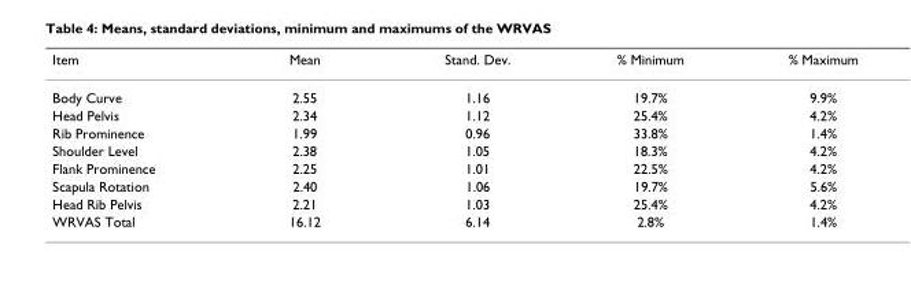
<table><thead><tr><td>Item</td><td>Mean</td><td>Stand. Dev.</td><td>% Minimum</td><td>% Maximum</td></tr></thead><tbody><tr><td>Body Curve</td><td>2.55</td><td>1.16</td><td>19.7%</td><td>9.9%</td></tr><tr><td>Head Pelvis</td><td>2.34</td><td>1.12</td><td>25.4%</td><td>4.2%</td></tr><tr><td>Rib Prominence</td><td>1.99</td><td>0.96</td><td>33.8%</td><td>1.4%</td></tr><tr><td>Shoulder Level</td><td>2.38</td><td>1.05</td><td>18.3%</td><td>4.2%</td></tr><tr><td>Flank Prominence</td><td>2.25</td><td>1.01</td><td>22.5%</td><td>4.2%</td></tr><tr><td>Scapula Rotation</td><td>2.40</td><td>1.06</td><td>19.7%</td><td>5.6%</td></tr><tr><td>Head Rib Pelvis</td><td>2.21</td><td>1.03</td><td>25.4%</td><td>4.2%</td></tr><tr><td>WRVAS Total</td><td>16.12</td><td>6.14</td><td>2.8%</td><td>1.4%</td></tr></tbody></table>